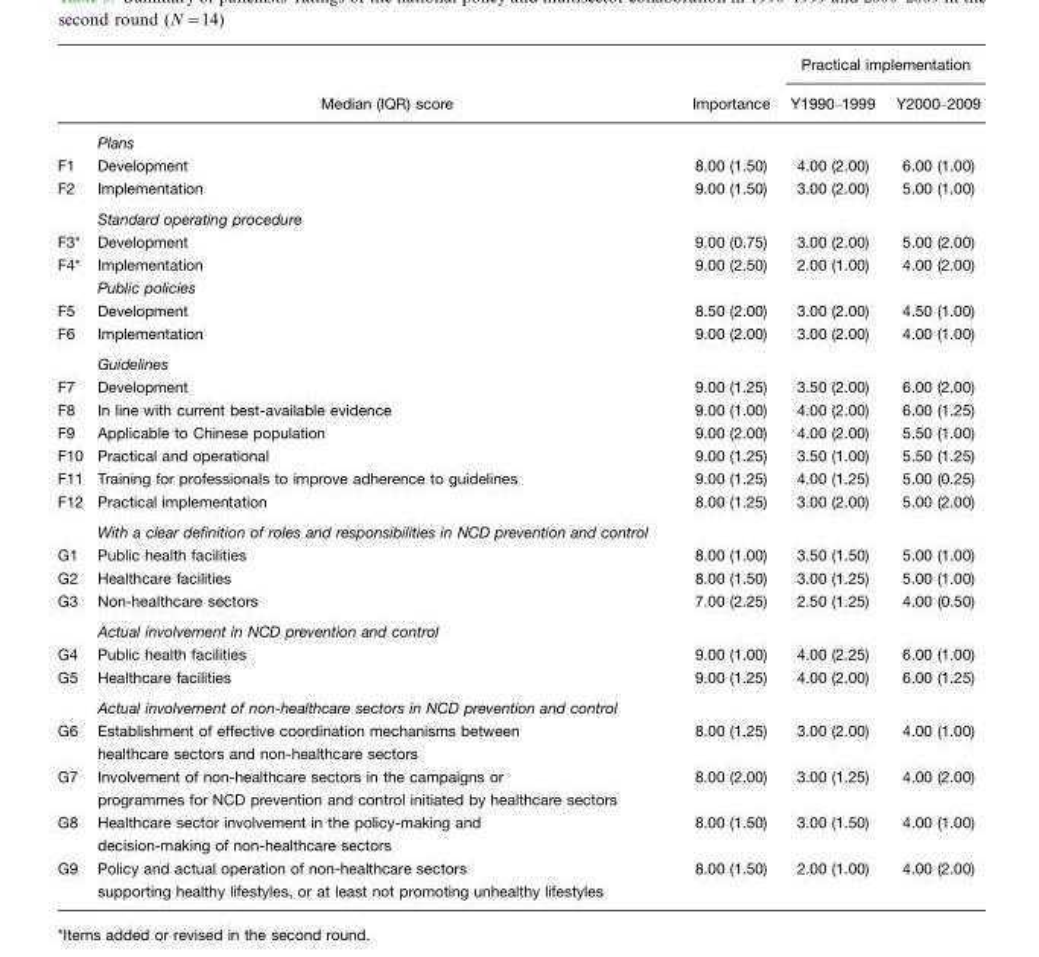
<table><thead><tr><td rowspan="2"></td><td rowspan="2">Median (IQR) score</td><td rowspan="2">Importance</td><td colspan="2">Practical implementation</td></tr><tr><td>Y1990–1999</td><td>Y2000–2009</td></tr></thead><tbody><tr><td></td><td>Plans</td><td></td><td></td><td></td></tr><tr><td>F1</td><td>Development</td><td>8.00 (1.50)</td><td>4.00 (2.00)</td><td>6.00 (1.00)</td></tr><tr><td rowspan="2">F2</td><td>Implementation</td><td>9.00 (1.50)</td><td>3.00 (2.00)</td><td>5.00 (1.00)</td></tr><tr><td colspan="4">Standard operating procedure</td></tr><tr><td>F3*</td><td>Development</td><td>9.00 (0.75)</td><td>3.00 (2.00)</td><td>5.00 (2.00)</td></tr><tr><td rowspan="2">F4*</td><td>Implementation</td><td>9.00 (2.50)</td><td>2.00 (1.00)</td><td>4.00 (2.00)</td></tr><tr><td>Public policies</td><td></td><td></td><td></td></tr><tr><td>F5</td><td>Development</td><td>8.50 (2.00)</td><td>3.00 (2.00)</td><td>4.50 (1.00)</td></tr><tr><td rowspan="2">F6</td><td>Implementation</td><td>9.00 (2.00)</td><td>3.00 (2.00)</td><td>4.00 (1.00)</td></tr><tr><td colspan="4">Guidelines</td></tr><tr><td>F7</td><td>Development</td><td>9.00 (1.25)</td><td>3.50 (2.00)</td><td>6.00 (2.00)</td></tr><tr><td>F8</td><td>In line with current best-available evidence</td><td>9.00 (1.00)</td><td>4.00 (2.00)</td><td>6.00 (1.25)</td></tr><tr><td>F9</td><td>Applicable to Chinese population</td><td>9.00 (2.00)</td><td>4.00 (2.00)</td><td>5.50 (1.00)</td></tr><tr><td>F10</td><td>Practical and operational</td><td>9.00 (1.25)</td><td>3.50 (1.00)</td><td>5.50 (1.25)</td></tr><tr><td>F11</td><td>Training for professionals to improve adherence to guidelines</td><td>9.00 (1.25)</td><td>4.00 (1.25)</td><td>5.00 (0.25)</td></tr><tr><td rowspan="2">F12</td><td>Practical implementation</td><td>8.00 (1.25)</td><td>3.00 (2.00)</td><td>5.00 (2.00)</td></tr><tr><td colspan="4">With a clear definition of roles and responsibilities in NCD prevention and control</td></tr><tr><td>G1</td><td>Public health facilities</td><td>8.00 (1.00)</td><td>3.50 (1.50)</td><td>5.00 (1.00)</td></tr><tr><td>G2</td><td>Healthcare facilities</td><td>8.00 (1.50)</td><td>3.00 (1.25)</td><td>5.00 (1.00)</td></tr><tr><td rowspan="2">G3</td><td>Non-healthcare sectors</td><td>7.00 (2.25)</td><td>2.50 (1.25)</td><td>4.00 (0.50)</td></tr><tr><td>Actual involvement in NCD prevention and control</td><td></td><td></td><td></td></tr><tr><td>G4</td><td>Public health facilities</td><td>9.00 (1.00)</td><td>4.00 (2.25)</td><td>6.00 (1.00)</td></tr><tr><td rowspan="2">G5</td><td>Healthcare facilities</td><td>9.00 (1.25)</td><td>4.00 (2.00)</td><td>6.00 (1.25)</td></tr><tr><td colspan="4">Actual involvement of non-healthcare sectors in NCD prevention and control</td></tr><tr><td>G6</td><td>Establishment of effective coordination mechanisms between healthcare sectors and non-healthcare sectors</td><td>8.00 (1.25)</td><td>3.00 (2.00)</td><td>4.00 (1.00)</td></tr><tr><td>G7</td><td>Involvement of non-healthcare sectors in the campaigns or programmes for NCD prevention and control initiated by healthcare sectors</td><td>8.00 (2.00)</td><td>3.00 (1.25)</td><td>4.00 (2.00)</td></tr><tr><td>G8</td><td>Healthcare sector involvement in the policy-making and decision-making of non-healthcare sectors</td><td>8.00 (1.50)</td><td>3.00 (1.50)</td><td>4.00 (1.00)</td></tr><tr><td>G9</td><td>Policy and actual operation of non-healthcare sectors supporting healthy lifestyles, or at least not promoting unhealthy lifestyles</td><td>8.00 (1.50)</td><td>2.00 (1.00)</td><td>4.00 (2.00)</td></tr></tbody></table>